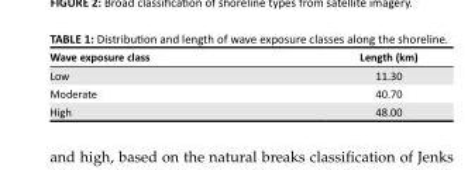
<table><thead><tr><td>Wave exposure class</td><td>Length (km)</td></tr></thead><tbody><tr><td>Low</td><td>11.30</td></tr><tr><td>Moderate</td><td>40.70</td></tr><tr><td>High</td><td>48.00</td></tr></tbody></table>